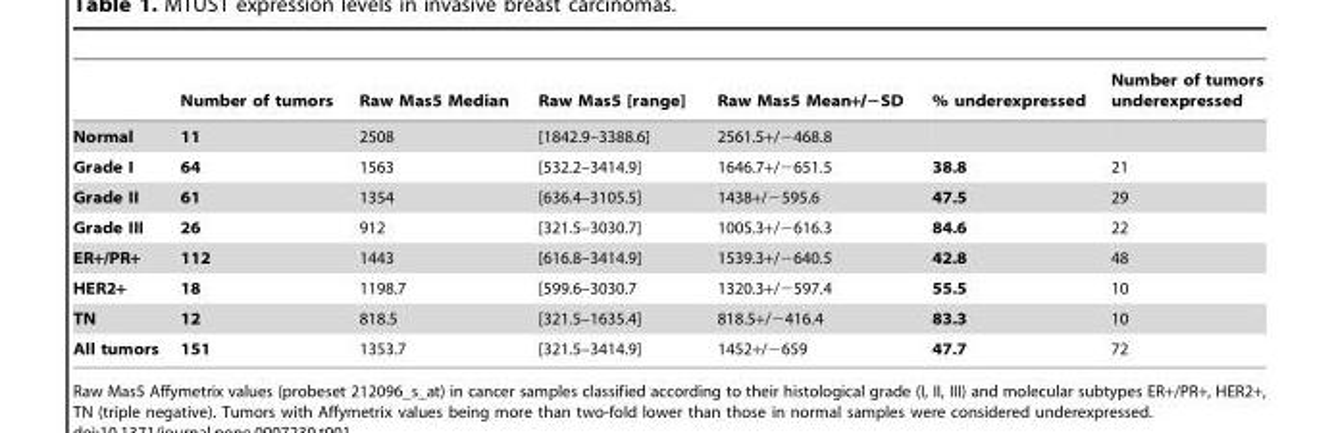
<table><thead><tr><td></td><td>Number of tumors</td><td>Raw Mas5 Median</td><td>Raw Mas5 [range]</td><td>Raw Mas5 Mean+/−SD</td><td>% underexpressed</td><td>Number of tumors underexpressed</td></tr></thead><tbody><tr><td>Normal</td><td>11</td><td>2508</td><td>[1842.9–3388.6]</td><td>2561.5+/−468.8</td><td></td><td></td></tr><tr><td>Grade I</td><td>64</td><td>1563</td><td>[532.2–3414.9]</td><td>1646.7+/−651.5</td><td>38.8</td><td>21</td></tr><tr><td>Grade II</td><td>61</td><td>1354</td><td>[636.4–3105.5]</td><td>1438+/−595.6</td><td>47.5</td><td>29</td></tr><tr><td>Grade III</td><td>26</td><td>912</td><td>[321.5–3030.7]</td><td>1005.3+/−616.3</td><td>84.6</td><td>22</td></tr><tr><td>ER+/PR+</td><td>112</td><td>1443</td><td>[616.8–3414.9]</td><td>1539.3+/−640.5</td><td>42.8</td><td>48</td></tr><tr><td>HER2+</td><td>18</td><td>1198.7</td><td>[599.6–3030.7</td><td>1320.3+/−597.4</td><td>55.5</td><td>10</td></tr><tr><td>TN</td><td>12</td><td>818.5</td><td>[321.5–1635.4]</td><td>818.5+/−416.4</td><td>83.3</td><td>10</td></tr><tr><td>All tumors</td><td>151</td><td>1353.7</td><td>[321.5–3414.9]</td><td>1452+/−659</td><td>47.7</td><td>72</td></tr></tbody></table>